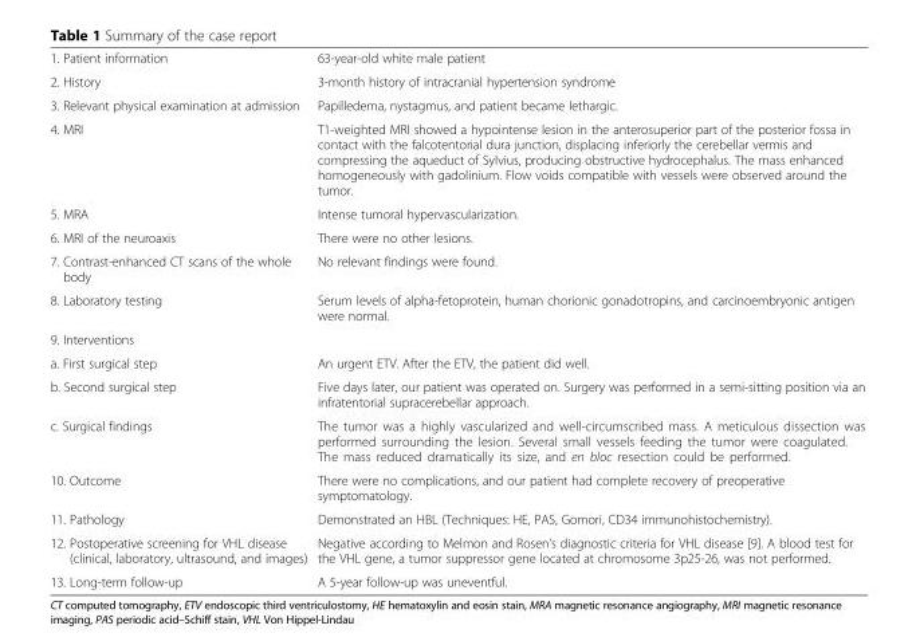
<table><tbody><tr><td>1. Patient information</td><td>63-year-old white male patient</td></tr><tr><td>2. History</td><td>3-month history of intracranial hypertension syndrome</td></tr><tr><td>3. Relevant physical examination at admission</td><td>Papilledema, nystagmus, and patient became lethargic.</td></tr><tr><td>4. MRI</td><td>T1-weighted MRI showed a hypointense lesion in the anterosuperior part of the posterior fossa in contact with the falcotentorial dura junction, displacing inferiorly the cerebellar vermis and compressing the aqueduct of Sylvius, producing obstructive hydrocephalus. The mass enhanced homogeneously with gadolinium. Flow voids compatible with vessels were observed around the tumor.</td></tr><tr><td>5. MRA</td><td>Intense tumoral hypervascularization.</td></tr><tr><td>6. MRI of the neuroaxis</td><td>There were no other lesions.</td></tr><tr><td>7. Contrast-enhanced CT scans of the whole body</td><td>No relevant findings were found.</td></tr><tr><td>8. Laboratory testing</td><td>Serum levels of alpha-fetoprotein, human chorionic gonadotropins, and carcinoembryonic antigen were normal.</td></tr><tr><td colspan="2">9. Interventions</td></tr><tr><td>a. First surgical step</td><td>An urgent ETV. After the ETV, the patient did well.</td></tr><tr><td>b. Second surgical step</td><td>Five days later, our patient was operated on. Surgery was performed in a semi-sitting position via an infratentorial supracerebellar approach.</td></tr><tr><td>c. Surgical findings</td><td>The tumor was a highly vascularized and well-circumscribed mass. A meticulous dissection was performed surrounding the lesion. Several small vessels feeding the tumor were coagulated. The mass reduced dramatically its size, and en bloc resection could be performed.</td></tr><tr><td>10. Outcome</td><td>There were no complications, and our patient had complete recovery of preoperative symptomatology.</td></tr><tr><td>11. Pathology</td><td>Demonstrated an HBL (Techniques: HE, PAS, Gomori, CD34 immunohistochemistry).</td></tr><tr><td>12. Postoperative screening for VHL disease (clinical, laboratory, ultrasound, and images)</td><td>Negative according to Melmon and Rosen’s diagnostic criteria for VHL disease [9]. A blood test for the VHL gene, a tumor suppressor gene located at chromosome 3p25-26, was not performed.</td></tr><tr><td>13. Long-term follow-up</td><td>A 5-year follow-up was uneventful.</td></tr></tbody></table>